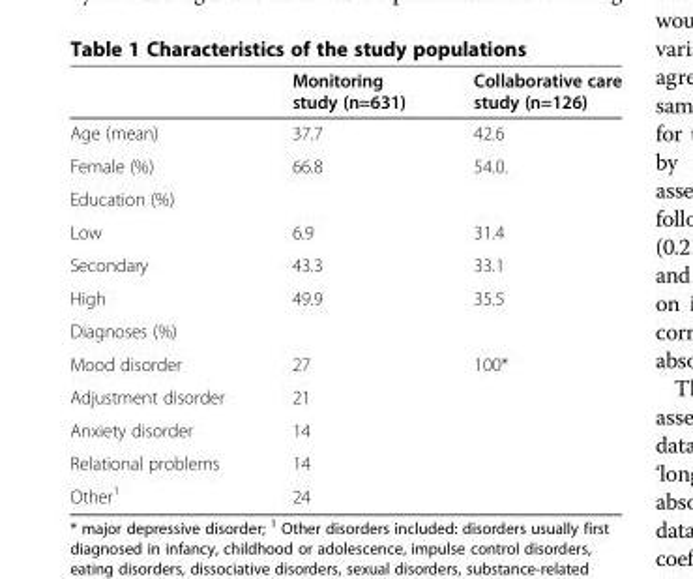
<table><thead><tr><td></td><td>Monitoring study (n=631)</td><td>Collaborative care study (n=126)</td></tr></thead><tbody><tr><td>Age (mean)</td><td>37.7</td><td>42.6</td></tr><tr><td>Female (%)</td><td>66.8</td><td>54.0.</td></tr><tr><td colspan="3">Education (%)</td></tr><tr><td>Low</td><td>6.9</td><td>31.4</td></tr><tr><td>Secondary</td><td>43.3</td><td>33.1</td></tr><tr><td>High</td><td>49.9</td><td>35.5</td></tr><tr><td colspan="3">Diagnoses (%)</td></tr><tr><td>Mood disorder</td><td>27</td><td>100*</td></tr><tr><td>Adjustment disorder</td><td>21</td><td></td></tr><tr><td>Anxiety disorder</td><td>14</td><td></td></tr><tr><td>Relational problems</td><td>14</td><td></td></tr><tr><td>Other<sup>1</sup></td><td>24</td><td></td></tr></tbody></table>